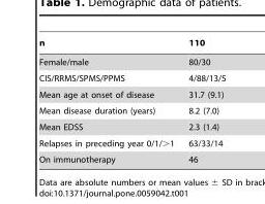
<table><thead><tr><td>n</td><td>110</td></tr></thead><tbody><tr><td>Female/male</td><td>80/30</td></tr><tr><td>CIS/RRMS/SPMS/PPMS</td><td>4/88/13/5</td></tr><tr><td>Mean age at onset of disease</td><td>31.7 (9.1)</td></tr><tr><td>Mean disease duration (years)</td><td>8.2 (7.0)</td></tr><tr><td>Mean EDSS</td><td>2.3 (1.4)</td></tr><tr><td>Relapses in preceding year 0/1/&gt;1</td><td>63/33/14</td></tr><tr><td>On immunotherapy</td><td>46</td></tr></tbody></table>